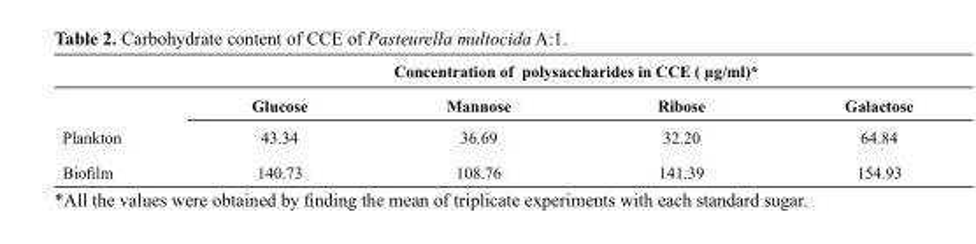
<table><thead><tr><td rowspan="2"></td><td colspan="4">Concentration of polysaccharides in CCE ( µg/ml)*</td></tr><tr><td>Glucose</td><td>Mannose</td><td>Ribose</td><td>Galactose</td></tr></thead><tbody><tr><td>Plankton</td><td>43.34</td><td>36.69</td><td>32.20</td><td>64.84</td></tr><tr><td>Biofilm</td><td>140.73</td><td>108.76</td><td>141.39</td><td>154.93</td></tr></tbody></table>